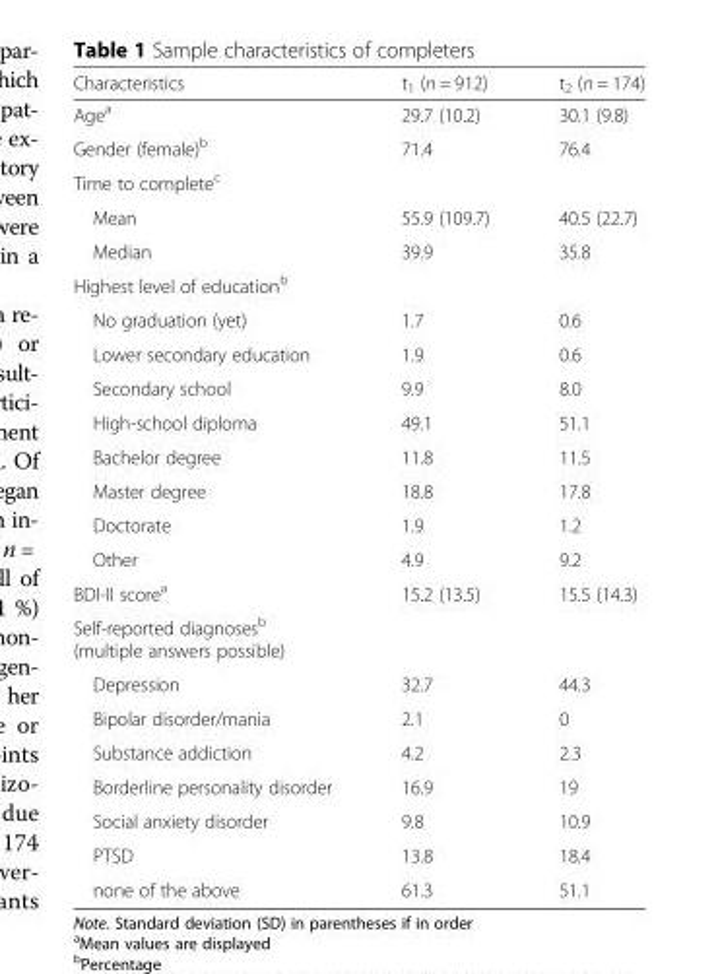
<table><thead><tr><td>Characteristics</td><td>t<sub>1</sub> (n = 912)</td><td>t<sub>2</sub> (n = 174)</td></tr></thead><tbody><tr><td>Age<sup>a</sup></td><td>29.7 (10.2)</td><td>30.1 (9.8)</td></tr><tr><td>Gender (female)<sup>b</sup></td><td>71.4</td><td>76.4</td></tr><tr><td colspan="3">Time to complete<sup>c</sup></td></tr><tr><td>Mean</td><td>55.9 (109.7)</td><td>40.5 (22.7)</td></tr><tr><td>Median</td><td>39.9</td><td>35.8</td></tr><tr><td colspan="3">Highest level of education<sup>b</sup></td></tr><tr><td>No graduation (yet)</td><td>1.7</td><td>0.6</td></tr><tr><td>Lower secondary education</td><td>1.9</td><td>0.6</td></tr><tr><td>Secondary school</td><td>9.9</td><td>8.0</td></tr><tr><td>High-school diploma</td><td>49.1</td><td>51.1</td></tr><tr><td>Bachelor degree</td><td>11.8</td><td>11.5</td></tr><tr><td>Master degree</td><td>18.8</td><td>17.8</td></tr><tr><td>Doctorate</td><td>1.9</td><td>1.2</td></tr><tr><td>Other</td><td>4.9</td><td>9.2</td></tr><tr><td>BDI-II score<sup>a</sup></td><td>15.2 (13.5)</td><td>15.5 (14.3)</td></tr><tr><td colspan="3">Self-reported diagnoses<sup>b</sup> (multiple answers possible)</td></tr><tr><td>Depression</td><td>32.7</td><td>44.3</td></tr><tr><td>Bipolar disorder/mania</td><td>2.1</td><td>0</td></tr><tr><td>Substance addiction</td><td>4.2</td><td>2.3</td></tr><tr><td>Borderline personality disorder</td><td>16.9</td><td>19</td></tr><tr><td>Social anxiety disorder</td><td>9.8</td><td>10.9</td></tr><tr><td>PTSD</td><td>13.8</td><td>18.4</td></tr><tr><td>none of the above</td><td>61.3</td><td>51.1</td></tr></tbody></table>